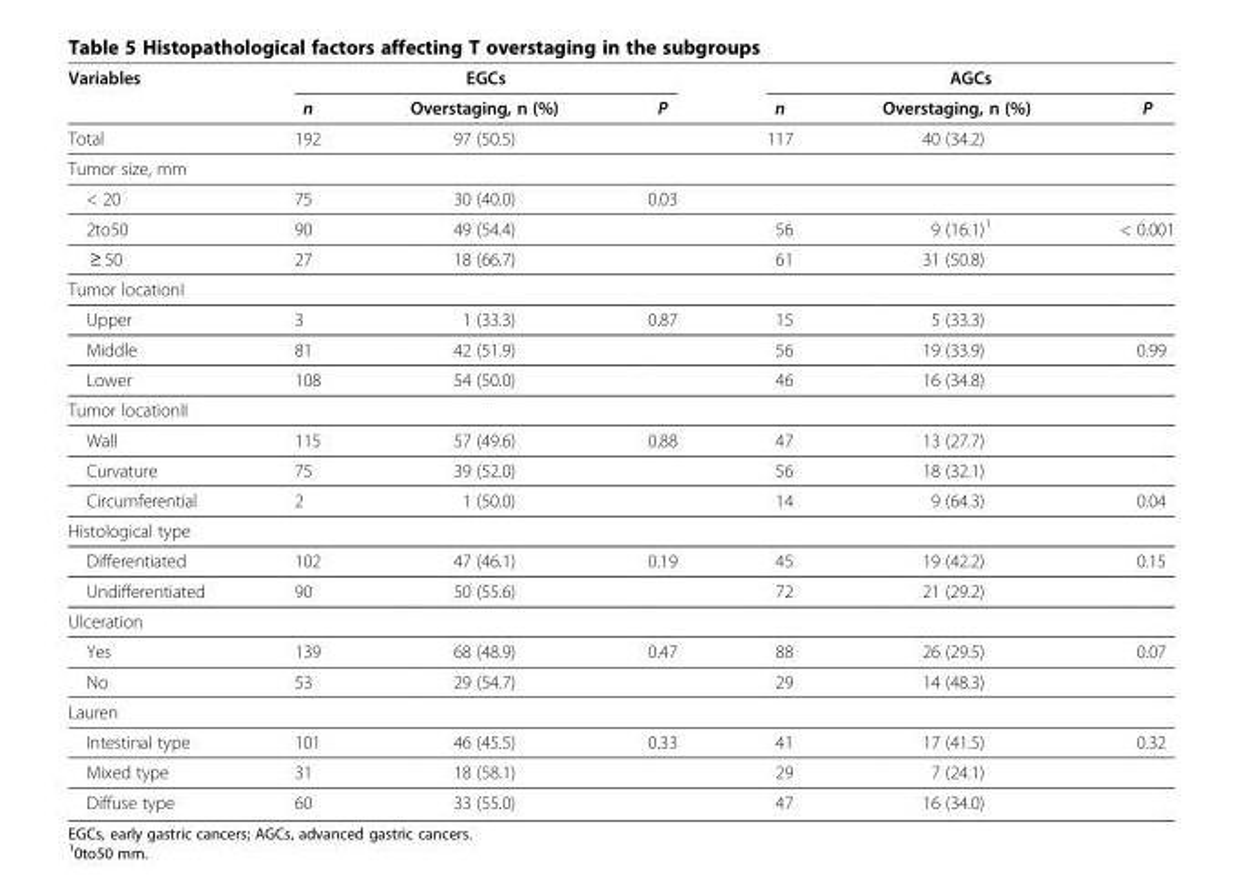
<table><thead><tr><td rowspan="2">Variables</td><td colspan="3">EGCs</td><td colspan="3">AGCs</td></tr><tr><td>n</td><td>Overstaging, n (%)</td><td>P</td><td>n</td><td>Overstaging, n (%)</td><td>P</td></tr></thead><tbody><tr><td>Total</td><td>192</td><td>97 (50.5)</td><td></td><td>117</td><td>40 (34.2)</td><td></td></tr><tr><td colspan="7">Tumor size, mm</td></tr><tr><td>&lt; 20</td><td>75</td><td>30 (40.0)</td><td>0.03</td><td></td><td></td><td></td></tr><tr><td>2to50</td><td>90</td><td>49 (54.4)</td><td></td><td>56</td><td>9 (16.1)<sup>1</sup></td><td>&lt; 0.001</td></tr><tr><td>≥ 50</td><td>27</td><td>18 (66.7)</td><td></td><td>61</td><td>31 (50.8)</td><td></td></tr><tr><td colspan="7">Tumor locationI</td></tr><tr><td>Upper</td><td>3</td><td>1 (33.3)</td><td>0.87</td><td>15</td><td>5 (33.3)</td><td></td></tr><tr><td>Middle</td><td>81</td><td>42 (51.9)</td><td></td><td>56</td><td>19 (33.9)</td><td>0.99</td></tr><tr><td>Lower</td><td>108</td><td>54 (50.0)</td><td></td><td>46</td><td>16 (34.8)</td><td></td></tr><tr><td colspan="7">Tumor locationII</td></tr><tr><td>Wall</td><td>115</td><td>57 (49.6)</td><td>0.88</td><td>47</td><td>13 (27.7)</td><td></td></tr><tr><td>Curvature</td><td>75</td><td>39 (52.0)</td><td></td><td>56</td><td>18 (32.1)</td><td></td></tr><tr><td>Circumferential</td><td>2</td><td>1 (50.0)</td><td></td><td>14</td><td>9 (64.3)</td><td>0.04</td></tr><tr><td colspan="7">Histological type</td></tr><tr><td>Differentiated</td><td>102</td><td>47 (46.1)</td><td>0.19</td><td>45</td><td>19 (42.2)</td><td>0.15</td></tr><tr><td>Undifferentiated</td><td>90</td><td>50 (55.6)</td><td></td><td>72</td><td>21 (29.2)</td><td></td></tr><tr><td colspan="7">Ulceration</td></tr><tr><td>Yes</td><td>139</td><td>68 (48.9)</td><td>0.47</td><td>88</td><td>26 (29.5)</td><td>0.07</td></tr><tr><td>No</td><td>53</td><td>29 (54.7)</td><td></td><td>29</td><td>14 (48.3)</td><td></td></tr><tr><td colspan="7">Lauren</td></tr><tr><td>Intestinal type</td><td>101</td><td>46 (45.5)</td><td>0.33</td><td>41</td><td>17 (41.5)</td><td>0.32</td></tr><tr><td>Mixed type</td><td>31</td><td>18 (58.1)</td><td></td><td>29</td><td>7 (24.1)</td><td></td></tr><tr><td>Diffuse type</td><td>60</td><td>33 (55.0)</td><td></td><td>47</td><td>16 (34.0)</td><td></td></tr></tbody></table>